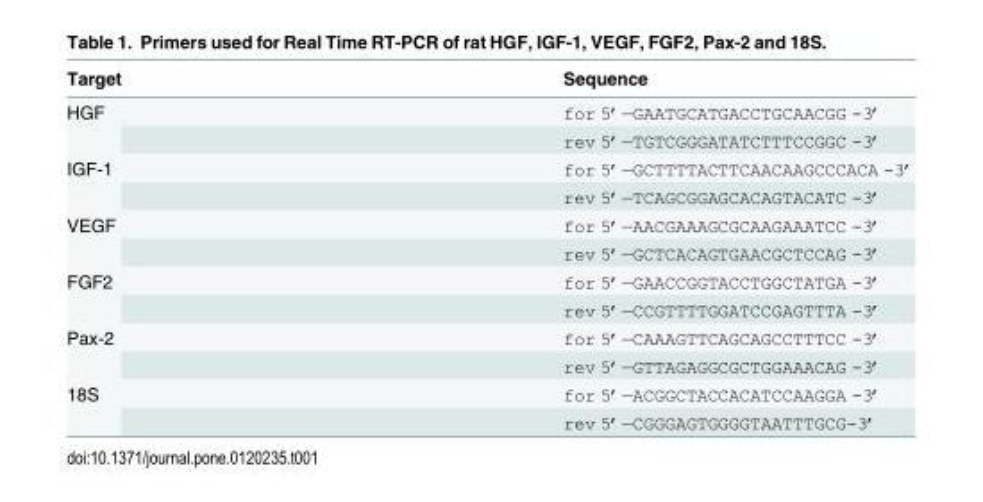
<table><thead><tr><td>Target</td><td>Sequence</td></tr></thead><tbody><tr><td rowspan="2">HGF</td><td>for 5’—GAATGCATGACCTGCAACGG -3’</td></tr><tr><td>rev 5’—TGTCGGGATATCTTTCCGGC -3’</td></tr><tr><td rowspan="2">IGF-1</td><td>for 5’—GCTTTTACTTCAACAAGCCCACA -3’</td></tr><tr><td>rev 5’—TCAGCGGAGCACAGTACATC -3’</td></tr><tr><td rowspan="2">VEGF</td><td>for 5’—AACGAAAGCGCAAGAAATCC -3’</td></tr><tr><td>rev 5’—GCTCACAGTGAACGCTCCAG -3’</td></tr><tr><td rowspan="2">FGF2</td><td>for 5’—GAACCGGTACCTGGCTATGA -3’</td></tr><tr><td>rev 5’—CCGTTTTGGATCCGAGTTTA -3’</td></tr><tr><td rowspan="2">Pax-2</td><td>for 5’—CAAAGTTCAGCAGCCTTTCC -3’</td></tr><tr><td>rev 5’—GTTAGAGGCGCTGGAAACAG -3’</td></tr><tr><td rowspan="2">18S</td><td>for 5’—ACGGCTACCACATCCAAGGA -3’</td></tr><tr><td>rev 5’—CGGGAGTGGGGTAATTTGCG-3’</td></tr></tbody></table>